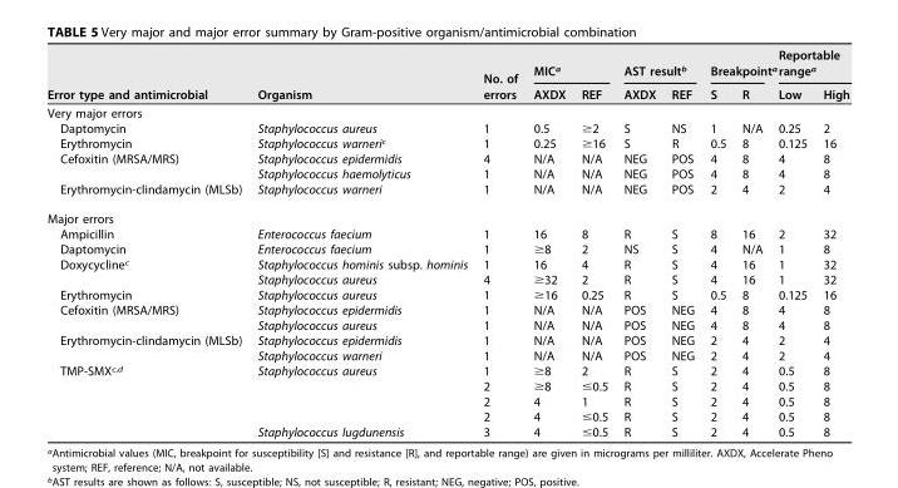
<table><thead><tr><td rowspan="2">Error type and antimicrobial</td><td rowspan="2">Organism</td><td rowspan="2">No. of errors</td><td colspan="2">MIC<sup>a</sup></td><td colspan="2">AST result<sup>b</sup></td><td colspan="2">Breakpoint<sup>a</sup></td><td colspan="2">Reportable range<sup>a</sup></td></tr><tr><td>AXDX</td><td>REF</td><td>AXDX</td><td>REF</td><td>S</td><td>R</td><td>Low</td><td>High</td></tr></thead><tbody><tr><td colspan="11">Very major errors</td></tr><tr><td>Daptomycin</td><td>Staphylococcus aureus</td><td>1</td><td>0.5</td><td>≥2</td><td>S</td><td>NS</td><td>1</td><td>N/A</td><td>0.25</td><td>2</td></tr><tr><td>Erythromycin</td><td>Staphylococcus warneri<sup>c</sup></td><td>1</td><td>0.25</td><td>≥16</td><td>S</td><td>R</td><td>0.5</td><td>8</td><td>0.125</td><td>16</td></tr><tr><td rowspan="2">Cefoxitin (MRSA/MRS)</td><td>Staphylococcus epidermidis</td><td>4</td><td>N/A</td><td>N/A</td><td>NEG</td><td>POS</td><td>4</td><td>8</td><td>4</td><td>8</td></tr><tr><td>Staphylococcus haemolyticus</td><td>1</td><td>N/A</td><td>N/A</td><td>NEG</td><td>POS</td><td>4</td><td>8</td><td>4</td><td>8</td></tr><tr><td>Erythromycin-clindamycin (MLSb)</td><td>Staphylococcus warneri</td><td>1</td><td>N/A</td><td>N/A</td><td>NEG</td><td>POS</td><td>2</td><td>4</td><td>2</td><td>4</td></tr><tr><td colspan="11">Major errors</td></tr><tr><td>Ampicillin</td><td>Enterococcus faecium</td><td>1</td><td>16</td><td>8</td><td>R</td><td>S</td><td>8</td><td>16</td><td>2</td><td>32</td></tr><tr><td>Daptomycin</td><td>Enterococcus faecium</td><td>1</td><td>≥8</td><td>2</td><td>NS</td><td>S</td><td>4</td><td>N/A</td><td>1</td><td>8</td></tr><tr><td rowspan="2">Doxycycline<sup>c</sup></td><td>Staphylococcus hominis subsp. hominis</td><td>1</td><td>16</td><td>4</td><td>R</td><td>S</td><td>4</td><td>16</td><td>1</td><td>32</td></tr><tr><td>Staphylococcus aureus</td><td>4</td><td>≥32</td><td>2</td><td>R</td><td>S</td><td>4</td><td>16</td><td>1</td><td>32</td></tr><tr><td>Erythromycin</td><td>Staphylococcus aureus</td><td>1</td><td>≥16</td><td>0.25</td><td>R</td><td>S</td><td>0.5</td><td>8</td><td>0.125</td><td>16</td></tr><tr><td rowspan="2">Cefoxitin (MRSA/MRS)</td><td>Staphylococcus epidermidis</td><td>1</td><td>N/A</td><td>N/A</td><td>POS</td><td>NEG</td><td>4</td><td>8</td><td>4</td><td>8</td></tr><tr><td>Staphylococcus aureus</td><td>1</td><td>N/A</td><td>N/A</td><td>POS</td><td>NEG</td><td>4</td><td>8</td><td>4</td><td>8</td></tr><tr><td rowspan="2">Erythromycin-clindamycin (MLSb)</td><td>Staphylococcus epidermidis</td><td>1</td><td>N/A</td><td>N/A</td><td>POS</td><td>NEG</td><td>2</td><td>4</td><td>2</td><td>4</td></tr><tr><td>Staphylococcus warneri</td><td>1</td><td>N/A</td><td>N/A</td><td>POS</td><td>NEG</td><td>2</td><td>4</td><td>2</td><td>4</td></tr><tr><td rowspan="5">TMP-SMX<sup>c,d</sup></td><td rowspan="4">Staphylococcus aureus</td><td>1</td><td>≥8</td><td>2</td><td>R</td><td>S</td><td>2</td><td>4</td><td>0.5</td><td>8</td></tr><tr><td>2</td><td>≥8</td><td>≤0.5</td><td>R</td><td>S</td><td>2</td><td>4</td><td>0.5</td><td>8</td></tr><tr><td>2</td><td>4</td><td>1</td><td>R</td><td>S</td><td>2</td><td>4</td><td>0.5</td><td>8</td></tr><tr><td>2</td><td>4</td><td>≤0.5</td><td>R</td><td>S</td><td>2</td><td>4</td><td>0.5</td><td>8</td></tr><tr><td>Staphylococcus lugdunensis</td><td>3</td><td>4</td><td>≤0.5</td><td>R</td><td>S</td><td>2</td><td>4</td><td>0.5</td><td>8</td></tr></tbody></table>